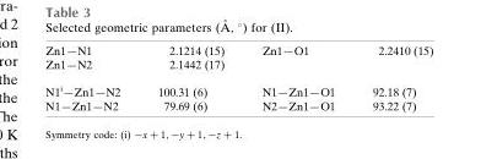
<table><tbody><tr><td>Zn1—N1</td><td>2.1214 (15)</td><td>Zn1—O1</td><td>2.2410 (15)</td></tr><tr><td>Zn1—N2</td><td>2.1442 (17)</td><td></td><td></td></tr><tr><td>N1<sup>i</sup>—Zn1—N2</td><td>100.31 (6)</td><td>N1—Zn1—O1</td><td>92.18 (7)</td></tr><tr><td>N1—Zn1—N2</td><td>79.69 (6)</td><td>N2—Zn1—O1</td><td>93.22 (7)</td></tr></tbody></table>